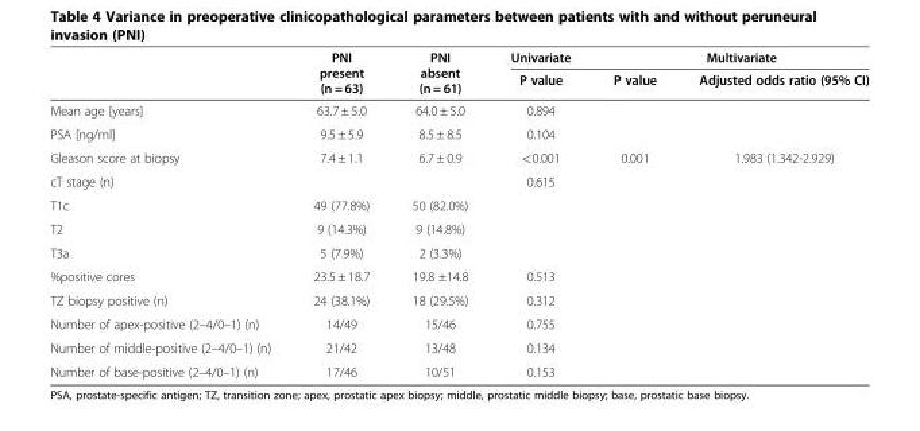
<table><thead><tr><td rowspan="2"></td><td rowspan="2">PNI present (n = 63)</td><td rowspan="2">PNI absent (n = 61)</td><td rowspan="2">Univariate P value</td><td colspan="2">Multivariate</td></tr><tr><td>P value</td><td>Adjusted odds ratio (95% CI)</td></tr></thead><tbody><tr><td>Mean age [years]</td><td>63.7 ± 5.0</td><td>64.0 ± 5.0</td><td>0.894</td><td></td><td></td></tr><tr><td>PSA [ng/ml]</td><td>9.5 ± 5.9</td><td>8.5 ± 8.5</td><td>0.104</td><td></td><td></td></tr><tr><td>Gleason score at biopsy</td><td>7.4 ± 1.1</td><td>6.7 ± 0.9</td><td>&lt;0.001</td><td>0.001</td><td>1.983 (1.342-2.929)</td></tr><tr><td>cT stage (n)</td><td></td><td></td><td>0.615</td><td></td><td></td></tr><tr><td>T1c</td><td>49 (77.8%)</td><td>50 (82.0%)</td><td></td><td></td><td></td></tr><tr><td>T2</td><td>9 (14.3%)</td><td>9 (14.8%)</td><td></td><td></td><td></td></tr><tr><td>T3a</td><td>5 (7.9%)</td><td>2 (3.3%)</td><td></td><td></td><td></td></tr><tr><td>%positive cores</td><td>23.5 ± 18.7</td><td>19.8 ±14.8</td><td>0.513</td><td></td><td></td></tr><tr><td>TZ biopsy positive (n)</td><td>24 (38.1%)</td><td>18 (29.5%)</td><td>0.312</td><td></td><td></td></tr><tr><td>Number of apex-positive (2–4/0–1) (n)</td><td>14/49</td><td>15/46</td><td>0.755</td><td></td><td></td></tr><tr><td>Number of middle-positive (2–4/0–1) (n)</td><td>21/42</td><td>13/48</td><td>0.134</td><td></td><td></td></tr><tr><td>Number of base-positive (2–4/0–1) (n)</td><td>17/46</td><td>10/51</td><td>0.153</td><td></td><td></td></tr></tbody></table>